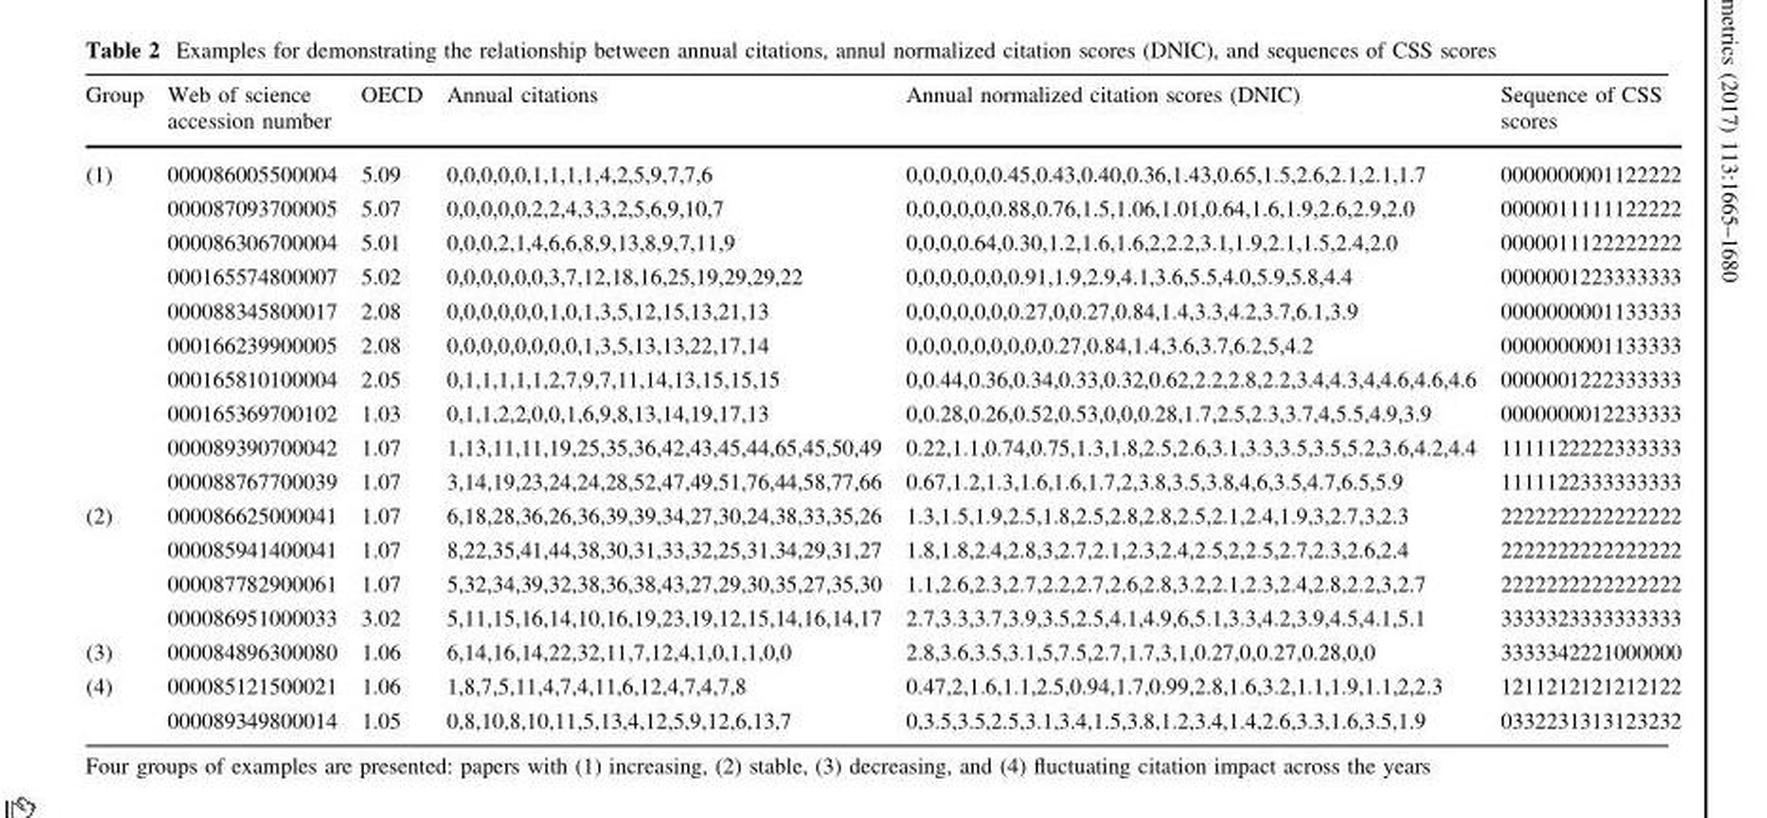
<table><thead><tr><td>Group</td><td>Web of science accession number</td><td>OECD</td><td>Annual citations</td><td>Annual normalized citation scores (DNIC)</td><td>Sequence of CSS scores</td></tr></thead><tbody><tr><td rowspan="10">(1)</td><td>000086005500004</td><td>5.09</td><td>0,0,0,0,0,1,1,1,1,4,2,5,9,7,7,6</td><td>0,0,0,0,0,0.45,0.43,0.40,0.36,1.43,0.65,1.5,2.6,2.1,2.1,1.7</td><td>0000000001122222</td></tr><tr><td>000087093700005</td><td>5.07</td><td>0,0,0,0,0,2,2,4,3,3,2,5,6,9,10,7</td><td>0,0,0,0,0,0.88,0.76,1.5,1.06,1.01,0.64,1.6,1.9,2.6,2.9,2.0</td><td>0000011111122222</td></tr><tr><td>000086306700004</td><td>5.01</td><td>0,0,0,2,1,4,6,6,8,9,13,8,9,7,11,9</td><td>0,0,0,0.64,0.30,1.2,1.6,1.6,2,2.2,3.1,1.9,2.1,1.5,2.4,2.0</td><td>0000011122222222</td></tr><tr><td>000165574800007</td><td>5.02</td><td>0,0,0,0,0,0,3,7,12,18,16,25,19,29,29,22</td><td>0,0,0,0,0,0,0.91,1.9,2.9,4.1,3.6,5.5,4.0,5.9,5.8,4.4</td><td>0000001223333333</td></tr><tr><td>000088345800017</td><td>2.08</td><td>0,0,0,0,0,0,1,0,1,3,5,12,15,13,21,13</td><td>0,0,0,0,0,0,0.27,0,0.27,0.84,1.4,3.3,4.2,3.7,6.1,3.9</td><td>0000000001133333</td></tr><tr><td>000166239900005</td><td>2.08</td><td>0,0,0,0,0,0,0,0,1,3,5,13,13,22,17,14</td><td>0,0,0,0,0,0,0,0,0.27,0.84,1.4,3.6,3.7,6.2,5,4.2</td><td>0000000001133333</td></tr><tr><td>000165810100004</td><td>2.05</td><td>0,1,1,1,1,1,2,7,9,7,11,14,13,15,15,15</td><td>0,0.44,0.36,0.34,0.33,0.32,0.62,2.2,2.8,2.2,3.4,4.3,4,4.6,4.6,4.6</td><td>0000001222333333</td></tr><tr><td>000165369700102</td><td>1.03</td><td>0,1,1,2,2,0,0,1,6,9,8,13,14,19,17,13</td><td>0,0.28,0.26,0.52,0.53,0,0,0.28,1.7,2.5,2.3,3.7,4,5.5,4.9,3.9</td><td>0000000012233333</td></tr><tr><td>000089390700042</td><td>1.07</td><td>1,13,11,11,19,25,35,36,42,43,45,44,65,45,50,49</td><td>0.22,1.1,0.74,0.75,1.3,1.8,2.5,2.6,3.1,3.3,3.5,3.5,5.2,3.6,4.2,4.4</td><td>1111122222333333</td></tr><tr><td>000088767700039</td><td>1.07</td><td>3,14,19,23,24,24,28,52,47,49,51,76,44,58,77,66</td><td>0.67,1.2,1.3,1.6,1.6,1.7,2,3.8,3.5,3.8,4,6,3.5,4.7,6.5,5.9</td><td>1111122333333333</td></tr><tr><td rowspan="4">(2)</td><td>000086625000041</td><td>1.07</td><td>6,18,28,36,26,36,39,39,34,27,30,24,38,33,35,26</td><td>1.3,1.5,1.9,2.5,1.8,2.5,2.8,2.8,2.5,2.1,2.4,1.9,3,2.7,3,2.3</td><td>2222222222222222</td></tr><tr><td>000085941400041</td><td>1.07</td><td>8,22,35,41,44,38,30,31,33,32,25,31,34,29,31,27</td><td>1.8,1.8,2.4,2.8,3,2.7,2.1,2.3,2.4,2.5,2,2.5,2.7,2.3,2.6,2.4</td><td>2222222222222222</td></tr><tr><td>000087782900061</td><td>1.07</td><td>5,32,34,39,32,38,36,38,43,27,29,30,35,27,35,30</td><td>1.1,2.6,2.3,2.7,2.2,2.7,2.6,2.8,3.2,2.1,2.3,2.4,2.8,2.2,3,2.7</td><td>2222222222222222</td></tr><tr><td>000086951000033</td><td>3.02</td><td>5,11,15,16,14,10,16,19,23,19,12,15,14,16,14,17</td><td>2.7,3.3,3.7,3.9,3.5,2.5,4.1,4.9,6,5.1,3.3,4.2,3.9,4.5,4.1,5.1</td><td>3333323333333333</td></tr><tr><td>(3)</td><td>000084896300080</td><td>1.06</td><td>6,14,16,14,22,32,11,7,12,4,1,0,1,1,0,0</td><td>2.8,3.6,3.5,3.1,5,7.5,2.7,1.7,3,1,0.27,0,0.27,0.28,0,0</td><td>3333342221000000</td></tr><tr><td rowspan="2">(4)</td><td>000085121500021</td><td>1.06</td><td>1,8,7,5,11,4,7,4,11,6,12,4,7,4,7,8</td><td>0.47,2,1.6,1.1,2.5,0.94,1.7,0.99,2.8,1.6,3.2,1.1,1.9,1.1,2,2.3</td><td>1211212121212122</td></tr><tr><td>000089349800014</td><td>1.05</td><td>0,8,10,8,10,11,5,13,4,12,5,9,12,6,13,7</td><td>0,3.5,3.5,2.5,3.1,3.4,1.5,3.8,1.2,3.4,1.4,2.6,3.3,1.6,3.5,1.9</td><td>0332231313123232</td></tr></tbody></table>